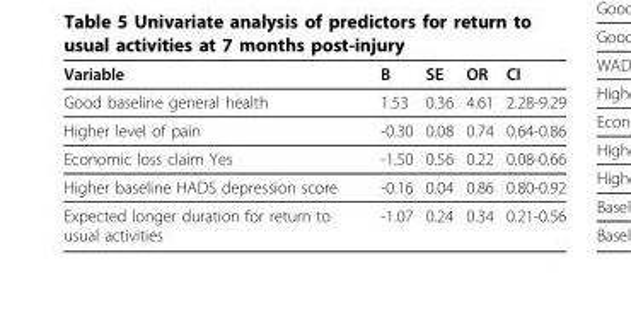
<table><thead><tr><td>Variable</td><td>B</td><td>SE</td><td>OR</td><td>CI</td></tr></thead><tbody><tr><td>Good baseline general health</td><td>1.53</td><td>0.36</td><td>4.61</td><td>2.28-9.29</td></tr><tr><td>Higher level of pain</td><td>-0.30</td><td>0.08</td><td>0.74</td><td>0.64-0.86</td></tr><tr><td>Economic loss claim Yes</td><td>-1.50</td><td>0.56</td><td>0.22</td><td>0.08-0.66</td></tr><tr><td>Higher baseline HADS depression score</td><td>-0.16</td><td>0.04</td><td>0.86</td><td>0.80-0.92</td></tr><tr><td>Expected longer duration for return to usual activities</td><td>-1.07</td><td>0.24</td><td>0.34</td><td>0.21-0.56</td></tr></tbody></table>